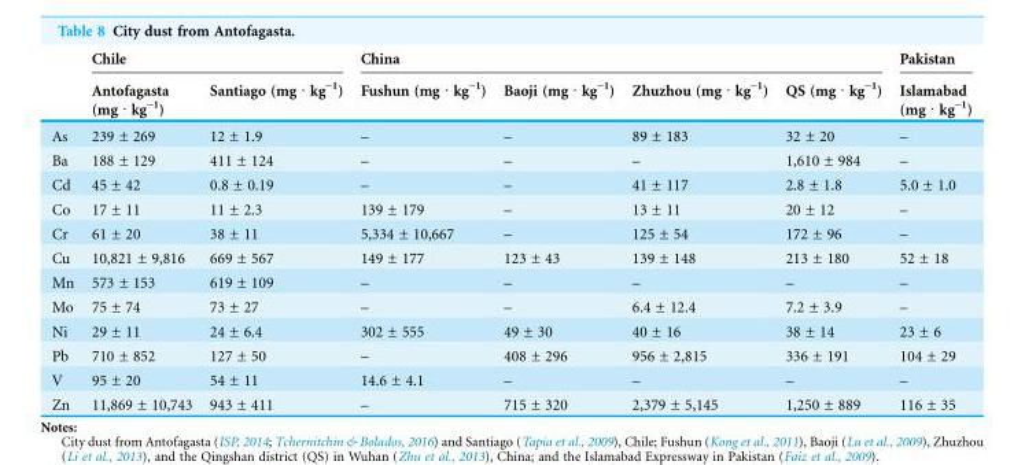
<table><thead><tr><td rowspan="2"></td><td colspan="2">Chile</td><td colspan="4">China</td><td rowspan="2">Pakistan Islamabad (mg · kg<sup>-1</sup>)</td></tr><tr><td>Antofagasta (mg · kg<sup>-1</sup>)</td><td>Santiago (mg · kg<sup>-1</sup>)</td><td>Fushun (mg · kg<sup>-1</sup>)</td><td>Baoji (mg · kg<sup>-1</sup>)</td><td>Zhuzhou (mg · kg<sup>-1</sup>)</td><td>QS (mg · kg<sup>-1</sup>)</td></tr></thead><tbody><tr><td>As</td><td>239 ± 269</td><td>12 ± 1.9</td><td>–</td><td>–</td><td>89 ± 183</td><td>32 ± 20</td><td>–</td></tr><tr><td>Ba</td><td>188 ± 129</td><td>411 ± 124</td><td>–</td><td>–</td><td>–</td><td>1,610 ± 984</td><td>–</td></tr><tr><td>Cd</td><td>45 ± 42</td><td>0.8 ± 0.19</td><td>–</td><td>–</td><td>41 ± 117</td><td>2.8 ± 1.8</td><td>5.0 ± 1.0</td></tr><tr><td>Co</td><td>17 ± 11</td><td>11 ± 2.3</td><td>139 ± 179</td><td>–</td><td>13 ± 11</td><td>20 ± 12</td><td>–</td></tr><tr><td>Cr</td><td>61 ± 20</td><td>38 ± 11</td><td>5,334 ± 10,667</td><td>–</td><td>125 ± 54</td><td>172 ± 96</td><td>–</td></tr><tr><td>Cu</td><td>10,821 ± 9,816</td><td>669 ± 567</td><td>149 ± 177</td><td>123 ± 43</td><td>139 ± 148</td><td>213 ± 180</td><td>52 ± 18</td></tr><tr><td>Mn</td><td>573 ± 153</td><td>619 ± 109</td><td>–</td><td>–</td><td>–</td><td>–</td><td>–</td></tr><tr><td>Mo</td><td>75 ± 74</td><td>73 ± 27</td><td>–</td><td>–</td><td>6.4 ± 12.4</td><td>7.2 ± 3.9</td><td>–</td></tr><tr><td>Ni</td><td>29 ± 11</td><td>24 ± 6.4</td><td>302 ± 555</td><td>49 ± 30</td><td>40 ± 16</td><td>38 ± 14</td><td>23 ± 6</td></tr><tr><td>Pb</td><td>710 ± 852</td><td>127 ± 50</td><td>–</td><td>408 ± 296</td><td>956 ± 2,815</td><td>336 ± 191</td><td>104 ± 29</td></tr><tr><td>V</td><td>95 ± 20</td><td>54 ± 11</td><td>14.6 ± 4.1</td><td>–</td><td>–</td><td>–</td><td>–</td></tr><tr><td>Zn</td><td>11,869 ± 10,743</td><td>943 ± 411</td><td>–</td><td>715 ± 320</td><td>2,379 ± 5,145</td><td>1,250 ± 889</td><td>116 ± 35</td></tr></tbody></table>